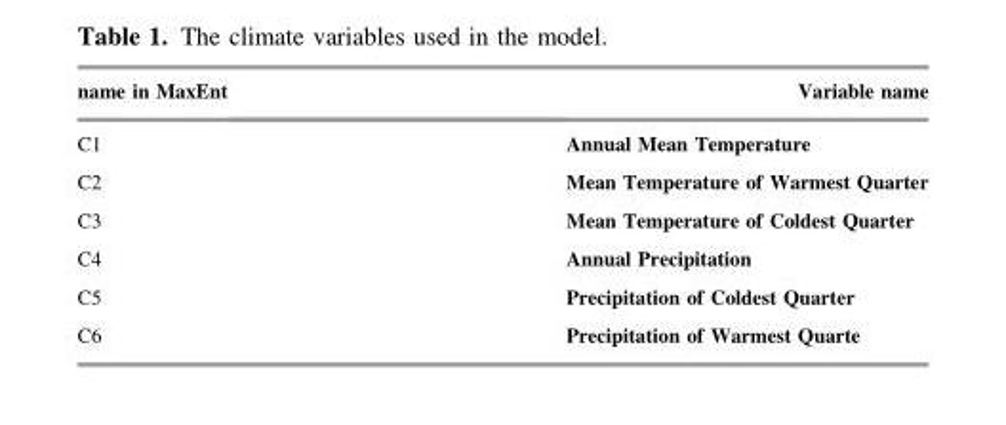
<table><thead><tr><td>name in MaxEnt</td><td>Variable name</td></tr></thead><tbody><tr><td>C1</td><td>Annual Mean Temperature</td></tr><tr><td>C2</td><td>Mean Temperature of Warmest Quarter</td></tr><tr><td>C3</td><td>Mean Temperature of Coldest Quarter</td></tr><tr><td>C4</td><td>Annual Precipitation</td></tr><tr><td>C5</td><td>Precipitation of Coldest Quarter</td></tr><tr><td>C6</td><td>Precipitation of Warmest Quarte</td></tr></tbody></table>